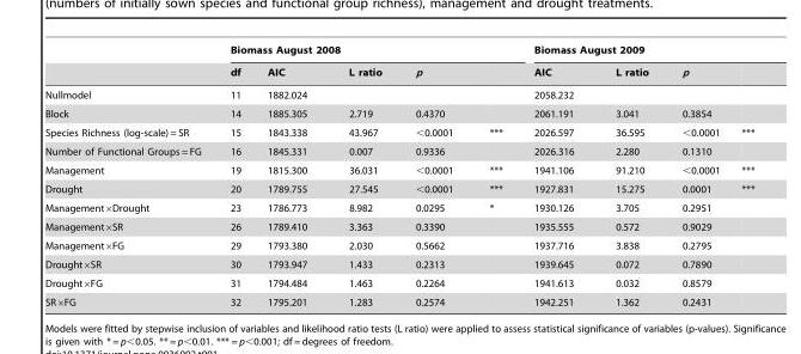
<table><thead><tr><td rowspan="2"></td><td colspan="5">Biomass August 2008</td><td colspan="4">Biomass August 2009</td></tr><tr><td>df</td><td>AIC</td><td>L ratio</td><td>p</td><td></td><td>AIC</td><td>L ratio</td><td>p</td><td></td></tr></thead><tbody><tr><td>Nullmodel</td><td>11</td><td>1882.024</td><td></td><td></td><td></td><td>2058.232</td><td></td><td></td><td></td></tr><tr><td>Block</td><td>14</td><td>1885.305</td><td>2.719</td><td>0.4370</td><td></td><td>2061.191</td><td>3.041</td><td>0.3854</td><td></td></tr><tr><td>Species Richness (log-scale) = SR</td><td>15</td><td>1843.338</td><td>43.967</td><td>&lt;0.0001</td><td>***</td><td>2026.597</td><td>36.595</td><td>&lt;0.0001</td><td>***</td></tr><tr><td>Number of Functional Groups = FG</td><td>16</td><td>1845.331</td><td>0.007</td><td>0.9336</td><td></td><td>2026.316</td><td>2.280</td><td>0.1310</td><td></td></tr><tr><td>Management</td><td>19</td><td>1815.300</td><td>36.031</td><td>&lt;0.0001</td><td>***</td><td>1941.106</td><td>91.210</td><td>&lt;0.0001</td><td>***</td></tr><tr><td>Drought</td><td>20</td><td>1789.755</td><td>27.545</td><td>&lt;0.0001</td><td>***</td><td>1927.831</td><td>15.275</td><td>0.0001</td><td>***</td></tr><tr><td>Management×Drought</td><td>23</td><td>1786.773</td><td>8.982</td><td>0.0295</td><td>*</td><td>1930.126</td><td>3.705</td><td>0.2951</td><td></td></tr><tr><td>Management×SR</td><td>26</td><td>1789.410</td><td>3.363</td><td>0.3390</td><td></td><td>1935.555</td><td>0.572</td><td>0.9029</td><td></td></tr><tr><td>Management×FG</td><td>29</td><td>1793.380</td><td>2.030</td><td>0.5662</td><td></td><td>1937.716</td><td>3.838</td><td>0.2795</td><td></td></tr><tr><td>Drought×SR</td><td>30</td><td>1793.947</td><td>1.433</td><td>0.2313</td><td></td><td>1939.645</td><td>0.072</td><td>0.7890</td><td></td></tr><tr><td>Drought×FG</td><td>31</td><td>1794.484</td><td>1.463</td><td>0.2264</td><td></td><td>1941.613</td><td>0.032</td><td>0.8579</td><td></td></tr><tr><td>SR×FG</td><td>32</td><td>1795.201</td><td>1.283</td><td>0.2574</td><td></td><td>1942.251</td><td>1.362</td><td>0.2431</td><td></td></tr></tbody></table>